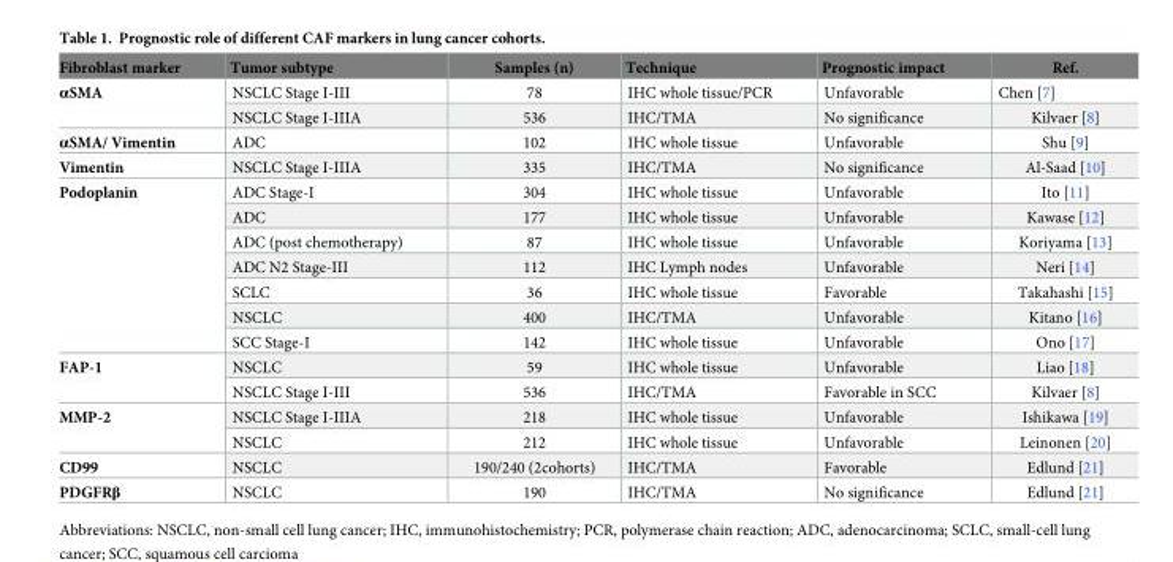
<table><thead><tr><td>Fibroblast marker</td><td>Tumor subtype</td><td>Samples (n)</td><td>Technique</td><td>Prognostic impact</td><td>Ref.</td></tr></thead><tbody><tr><td rowspan="2">αSMA</td><td>NSCLC Stage I-III</td><td>78</td><td>IHC whole tissue/PCR</td><td>Unfavorable</td><td>Chen [7]</td></tr><tr><td>NSCLC Stage I-IIIA</td><td>536</td><td>IHC/TMA</td><td>No significance</td><td>Kilvaer [8]</td></tr><tr><td>αSMA/ Vimentin</td><td>ADC</td><td>102</td><td>IHC whole tissue</td><td>Unfavorable</td><td>Shu [9]</td></tr><tr><td>Vimentin</td><td>NSCLC Stage I-IIIA</td><td>335</td><td>IHC/TMA</td><td>No significance</td><td>Al-Saad [10]</td></tr><tr><td rowspan="7">Podoplanin</td><td>ADC Stage-I</td><td>304</td><td>IHC whole tissue</td><td>Unfavorable</td><td>Ito [11]</td></tr><tr><td>ADC</td><td>177</td><td>IHC whole tissue</td><td>Unfavorable</td><td>Kawase [12]</td></tr><tr><td>ADC (post chemotherapy)</td><td>87</td><td>IHC whole tissue</td><td>Unfavorable</td><td>Koriyama [13]</td></tr><tr><td>ADC N2 Stage-III</td><td>112</td><td>IHC Lymph nodes</td><td>Unfavorable</td><td>Neri [14]</td></tr><tr><td>SCLC</td><td>36</td><td>IHC whole tissue</td><td>Favorable</td><td>Takahashi [15]</td></tr><tr><td>NSCLC</td><td>400</td><td>IHC/TMA</td><td>Unfavorable</td><td>Kitano [16]</td></tr><tr><td>SCC Stage-I</td><td>142</td><td>IHC whole tissue</td><td>Unfavorable</td><td>Ono [17]</td></tr><tr><td rowspan="2">FAP-1</td><td>NSCLC</td><td>59</td><td>IHC whole tissue</td><td>Unfavorable</td><td>Liao [18]</td></tr><tr><td>NSCLC Stage I-III</td><td>536</td><td>IHC/TMA</td><td>Favorable in SCC</td><td>Kilvaer [8]</td></tr><tr><td rowspan="2">MMP-2</td><td>NSCLC Stage I-IIIA</td><td>218</td><td>IHC whole tissue</td><td>Unfavorable</td><td>Ishikawa [19]</td></tr><tr><td>NSCLC</td><td>212</td><td>IHC whole tissue</td><td>Unfavorable</td><td>Leinonen [20]</td></tr><tr><td>CD99</td><td>NSCLC</td><td>190/240 (2cohorts)</td><td>IHC/TMA</td><td>Favorable</td><td>Edlund [21]</td></tr><tr><td>PDGFRβ</td><td>NSCLC</td><td>190</td><td>IHC/TMA</td><td>No significance</td><td>Edlund [21]</td></tr></tbody></table>